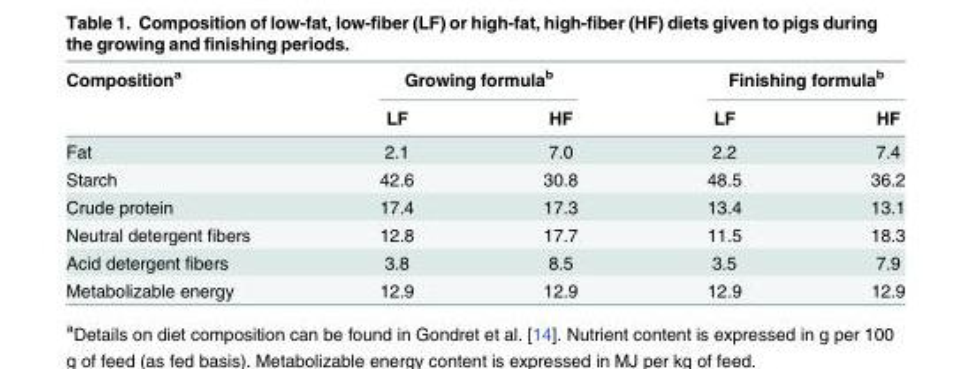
<table><thead><tr><td rowspan="2">Composition<sup>a</sup></td><td colspan="2">Growing formula<sup>b</sup></td><td colspan="2">Finishing formula<sup>b</sup></td></tr><tr><td>LF</td><td>HF</td><td>LF</td><td>HF</td></tr></thead><tbody><tr><td>Fat</td><td>2.1</td><td>7.0</td><td>2.2</td><td>7.4</td></tr><tr><td>Starch</td><td>42.6</td><td>30.8</td><td>48.5</td><td>36.2</td></tr><tr><td>Crude protein</td><td>17.4</td><td>17.3</td><td>13.4</td><td>13.1</td></tr><tr><td>Neutral detergent fibers</td><td>12.8</td><td>17.7</td><td>11.5</td><td>18.3</td></tr><tr><td>Acid detergent fibers</td><td>3.8</td><td>8.5</td><td>3.5</td><td>7.9</td></tr><tr><td>Metabolizable energy</td><td>12.9</td><td>12.9</td><td>12.9</td><td>12.9</td></tr></tbody></table>